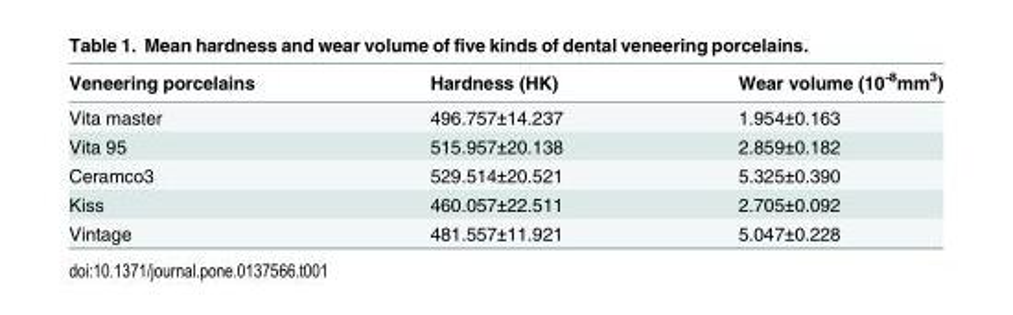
<table><thead><tr><td>Veneering porcelains</td><td>Hardness (HK)</td><td>Wear volume (10<sup>-8</sup>mm<sup>3</sup>)</td></tr></thead><tbody><tr><td>Vita master</td><td>496.757±14.237</td><td>1.954±0.163</td></tr><tr><td>Vita 95</td><td>515.957±20.138</td><td>2.859±0.182</td></tr><tr><td>Ceramco3</td><td>529.514±20.521</td><td>5.325±0.390</td></tr><tr><td>Kiss</td><td>460.057±22.511</td><td>2.705±0.092</td></tr><tr><td>Vintage</td><td>481.557±11.921</td><td>5.047±0.228</td></tr></tbody></table>